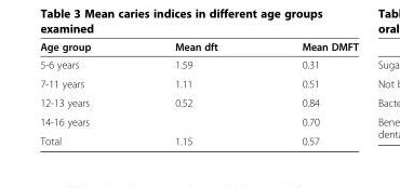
<table><thead><tr><td>Age group</td><td>Mean dft</td><td>Mean DMFT</td></tr></thead><tbody><tr><td>5-6 years</td><td>1.59</td><td>0.31</td></tr><tr><td>7-11 years</td><td>1.11</td><td>0.51</td></tr><tr><td>12-13 years</td><td>0.52</td><td>0.84</td></tr><tr><td>14-16 years</td><td></td><td>0.70</td></tr><tr><td>Total</td><td>1.15</td><td>0.57</td></tr></tbody></table>